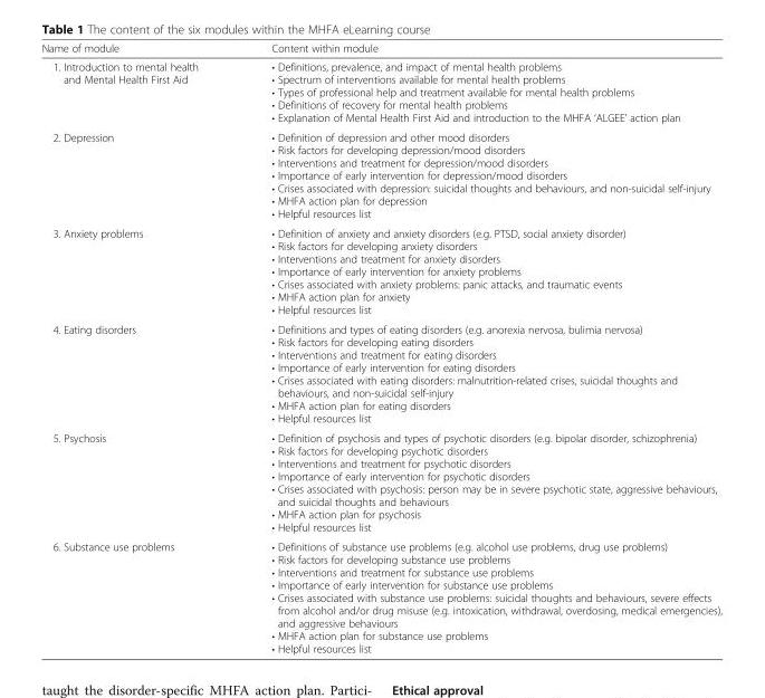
<table><thead><tr><td>Name of module</td><td>Content within module</td></tr></thead><tbody><tr><td>1. Introduction to mental health and Mental Health First Aid</td><td>• Definitions, prevalence, and impact of mental health problems • Spectrum of interventions available for mental health problems • Types of professional help and treatment available for mental health problems • Definitions of recovery for mental health problems • Explanation of Mental Health First Aid and introduction to the MHFA ‘ALGEE’ action plan</td></tr><tr><td>2. Depression</td><td>• Definition of depression and other mood disorders • Risk factors for developing depression/mood disorders • Interventions and treatment for depression/mood disorders • Importance of early intervention for depression/mood disorders • Crises associated with depression: suicidal thoughts and behaviours, and non-suicidal self-injury • MHFA action plan for depression • Helpful resources list</td></tr><tr><td>3. Anxiety problems</td><td>• Definition of anxiety and anxiety disorders (e.g. PTSD, social anxiety disorder) • Risk factors for developing anxiety disorders • Interventions and treatment for anxiety disorders • Importance of early intervention for anxiety problems • Crises associated with anxiety problems: panic attacks, and traumatic events • MHFA action plan for anxiety • Helpful resources list</td></tr><tr><td>4. Eating disorders</td><td>• Definitions and types of eating disorders (e.g. anorexia nervosa, bulimia nervosa) • Risk factors for developing eating disorders • Interventions and treatment for eating disorders • Importance of early intervention for eating disorders • Crises associated with eating disorders: malnutrition-related crises, suicidal thoughts and behaviours, and non-suicidal self-injury • MHFA action plan for eating disorders • Helpful resources list</td></tr><tr><td>5. Psychosis</td><td>• Definition of psychosis and types of psychotic disorders (e.g. bipolar disorder, schizophrenia) • Risk factors for developing psychotic disorders • Interventions and treatment for psychotic disorders • Importance of early intervention for psychotic disorders • Crises associated with psychosis: person may be in severe psychotic state, aggressive behaviours, and suicidal thoughts and behaviours • MHFA action plan for psychosis • Helpful resources list</td></tr><tr><td>6. Substance use problems</td><td>• Definitions of substance use problems (e.g. alcohol use problems, drug use problems) • Risk factors for developing substance use problems • Interventions and treatment for substance use problems • Importance of early intervention for substance use problems • Crises associated with substance use problems: suicidal thoughts and behaviours, severe effects from alcohol and/or drug misuse (e.g. intoxication, withdrawal, overdosing, medical emergencies), and aggressive behaviours • MHFA action plan for substance use problems • Helpful resources list</td></tr></tbody></table>